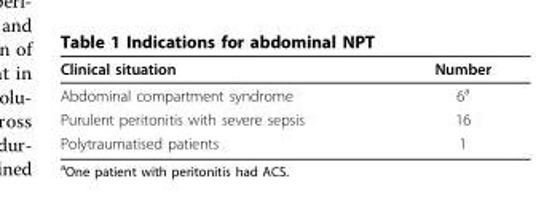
<table><thead><tr><td>Clinical situation</td><td>Number</td></tr></thead><tbody><tr><td>Abdominal compartment syndrome</td><td>6<sup>a</sup></td></tr><tr><td>Purulent peritonitis with severe sepsis</td><td>16</td></tr><tr><td>Polytraumatised patients</td><td>1</td></tr></tbody></table>